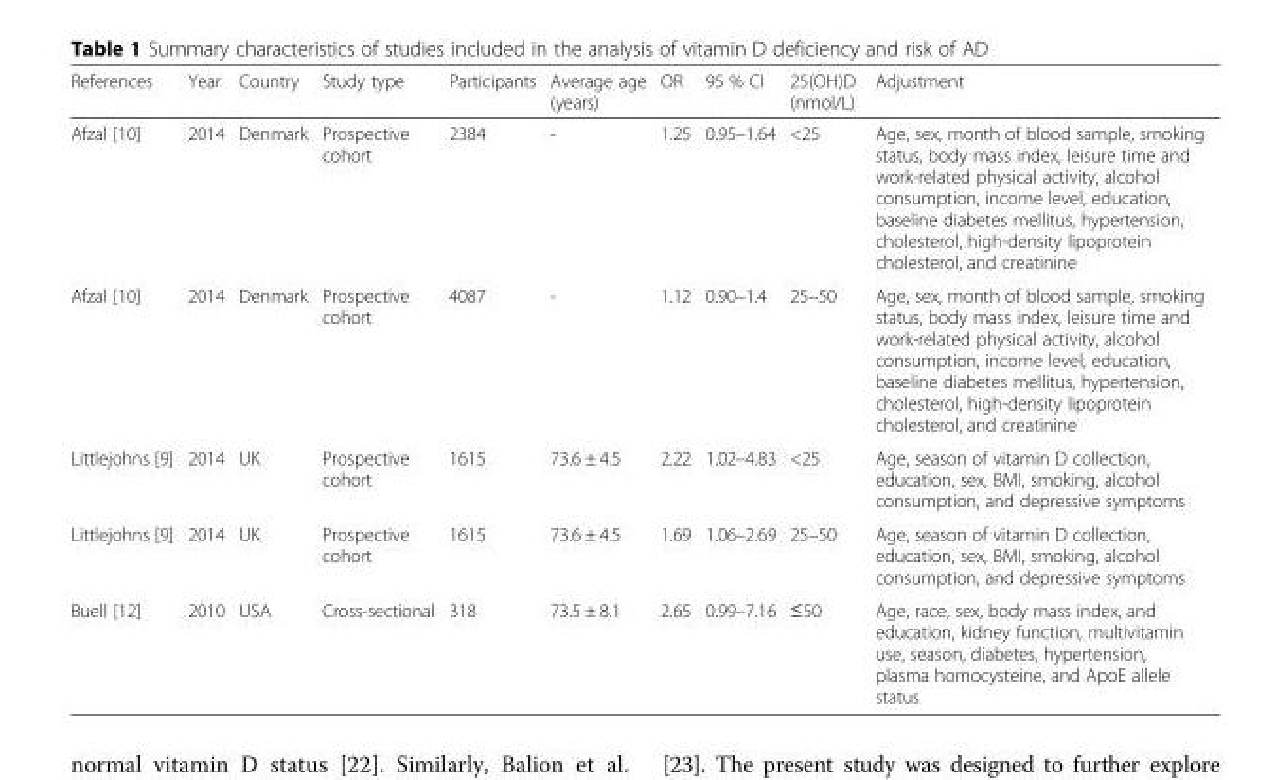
<table><thead><tr><td>References</td><td>Year</td><td>Country</td><td>Study type</td><td>Participants</td><td>Average age (years)</td><td>OR</td><td>95 % CI</td><td>25(OH)D (nmol/L)</td><td>Adjustment</td></tr></thead><tbody><tr><td>Afzal [10]</td><td>2014</td><td>Denmark</td><td>Prospective cohort</td><td>2384</td><td>-</td><td>1.25</td><td>0.95–1.64</td><td>&lt;25</td><td>Age, sex, month of blood sample, smoking status, body mass index, leisure time and work-related physical activity, alcohol consumption, income level, education, baseline diabetes mellitus, hypertension, cholesterol, high-density lipoprotein cholesterol, and creatinine</td></tr><tr><td>Afzal [10]</td><td>2014</td><td>Denmark</td><td>Prospective cohort</td><td>4087</td><td>-</td><td>1.12</td><td>0.90–1.4</td><td>25–50</td><td>Age, sex, month of blood sample, smoking status, body mass index, leisure time and work-related physical activity, alcohol consumption, income level, education, baseline diabetes mellitus, hypertension, cholesterol, high-density lipoprotein cholesterol, and creatinine</td></tr><tr><td>Littlejohns [9]</td><td>2014</td><td>UK</td><td>Prospective cohort</td><td>1615</td><td>73.6 ± 4.5</td><td>2.22</td><td>1.02–4.83</td><td>&lt;25</td><td>Age, season of vitamin D collection, education, sex, BMI, smoking, alcohol consumption, and depressive symptoms</td></tr><tr><td>Littlejohns [9]</td><td>2014</td><td>UK</td><td>Prospective cohort</td><td>1615</td><td>73.6 ± 4.5</td><td>1.69</td><td>1.06–2.69</td><td>25–50</td><td>Age, season of vitamin D collection, education, sex, BMI, smoking, alcohol consumption, and depressive symptoms</td></tr><tr><td>Buell [12]</td><td>2010</td><td>USA</td><td>Cross-sectional</td><td>318</td><td>73.5 ± 8.1</td><td>2.65</td><td>0.99–7.16</td><td>≤50</td><td>Age, race, sex, body mass index, and education, kidney function, multivitamin use, season, diabetes, hypertension, plasma homocysteine, and ApoE allele status</td></tr></tbody></table>